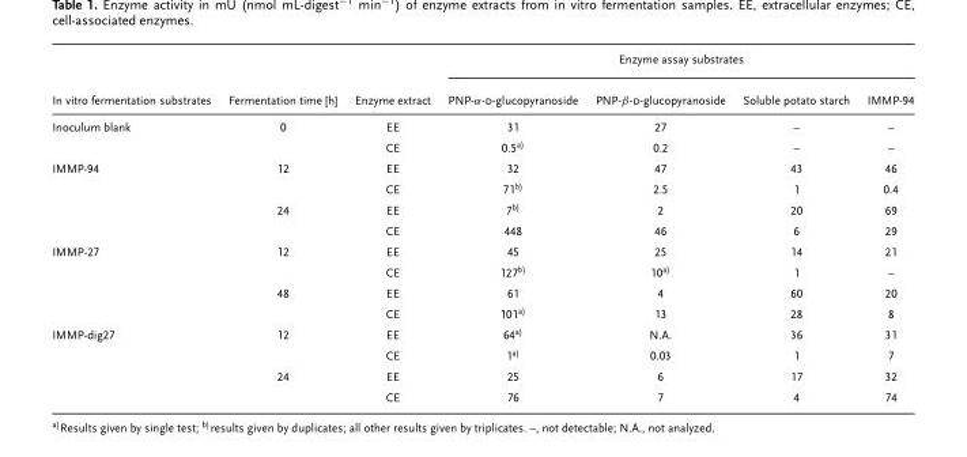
<table><thead><tr><td rowspan="2">In vitro fermentation substrates</td><td rowspan="2">Fermentation time [h]</td><td rowspan="2">Enzyme extract</td><td colspan="4">Enzyme assay substrates</td></tr><tr><td>PNP-α-d-glucopyranoside</td><td>PNP-β-d-glucopyranoside</td><td>Soluble potato starch</td><td>IMMP-94</td></tr></thead><tbody><tr><td rowspan="2">Inoculum blank</td><td>0</td><td>EE</td><td>31</td><td>27</td><td>–</td><td>–</td></tr><tr><td></td><td>CE</td><td>0.5a)</td><td>0.2</td><td>–</td><td>–</td></tr><tr><td rowspan="4">IMMP-94</td><td>12</td><td>EE</td><td>32</td><td>47</td><td>43</td><td>46</td></tr><tr><td></td><td>CE</td><td>71b)</td><td>2.5</td><td>1</td><td>0.4</td></tr><tr><td>24</td><td>EE</td><td>7b)</td><td>2</td><td>20</td><td>69</td></tr><tr><td></td><td>CE</td><td>448</td><td>46</td><td>6</td><td>29</td></tr><tr><td rowspan="4">IMMP-27</td><td>12</td><td>EE</td><td>45</td><td>25</td><td>14</td><td>21</td></tr><tr><td></td><td>CE</td><td>127b)</td><td>10a)</td><td>1</td><td>–</td></tr><tr><td>48</td><td>EE</td><td>61</td><td>4</td><td>60</td><td>20</td></tr><tr><td></td><td>CE</td><td>101a)</td><td>13</td><td>28</td><td>8</td></tr><tr><td rowspan="4">IMMP-dig27</td><td>12</td><td>EE</td><td>64a)</td><td>N.A.</td><td>36</td><td>31</td></tr><tr><td></td><td>CE</td><td>1a)</td><td>0.03</td><td>1</td><td>7</td></tr><tr><td>24</td><td>EE</td><td>25</td><td>6</td><td>17</td><td>32</td></tr><tr><td></td><td>CE</td><td>76</td><td>7</td><td>4</td><td>74</td></tr></tbody></table>